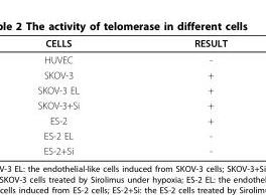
<table><thead><tr><td>CELLS</td><td>RESULT</td></tr></thead><tbody><tr><td>HUVEC</td><td>-</td></tr><tr><td>SKOV-3</td><td>+</td></tr><tr><td>SKOV-3 EL</td><td>+</td></tr><tr><td>SKOV-3+Si</td><td>+</td></tr><tr><td>ES-2</td><td>+</td></tr><tr><td>ES-2 EL</td><td>-</td></tr><tr><td>ES-2+Si</td><td>-</td></tr></tbody></table>